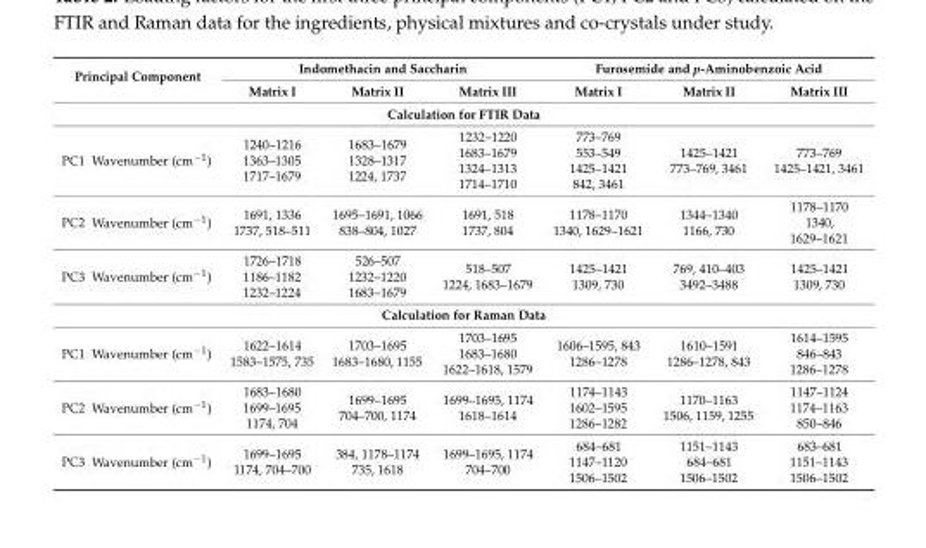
<table><thead><tr><td rowspan="2" colspan="2">Principal Component</td><td colspan="3">Indomethacin and Saccharin</td><td colspan="3">Furosemide and p-Aminobenzoic Acid</td></tr><tr><td>Matrix I</td><td>Matrix II</td><td>Matrix III</td><td>Matrix I</td><td>Matrix II</td><td>Matrix III</td></tr><tr><td colspan="8">Calculation for FTIR Data</td></tr><tr><td>PC1</td><td>Wavenumber (cm<sup>−1</sup>)</td><td>1240–1216 1363–1305 1717–1679</td><td>1683–1679 1328–1317 1224, 1737</td><td>1232–1220 1683–1679 1324–1313 1714–1710</td><td>773–769 553–549 1425–1421 842, 3461</td><td>1425–1421 773–769, 3461</td><td>773–769 1425–1421, 3461</td></tr></thead><tbody><tr><td>PC2</td><td>Wavenumber (cm<sup>−1</sup>)</td><td>1691, 1336 1737, 518–511</td><td>1695–1691, 1066 838–804, 1027</td><td>1691, 518 1737, 804</td><td>1178–1170 1340, 1629–1621</td><td>1344–1340 1166, 730</td><td>1178–1170 1340, 1629–1621</td></tr><tr><td>PC3</td><td>Wavenumber (cm<sup>−1</sup>)</td><td>1726–1718 1186–1182 1232–1224</td><td>526–507 1232–1220 1683–1679</td><td>518–507 1224, 1683–1679</td><td>1425–1421 1309, 730</td><td>769, 410–403 3492–3488</td><td>1425–1421 1309, 730</td></tr><tr><td colspan="8">Calculation for Raman Data</td></tr><tr><td>PC1</td><td>Wavenumber (cm<sup>−1</sup>)</td><td>1622–1614 1583–1575, 735</td><td>1703–1695 1683–1680, 1155</td><td>1703–1695 1683–1680 1622–1618, 1579</td><td>1606–1595, 843 1286–1278</td><td>1610–1591 1286–1278, 843</td><td>1614–1595 846–843 1286–1278</td></tr><tr><td>PC2</td><td>Wavenumber (cm<sup>−1</sup>)</td><td>1683–1680 1699–1695 1174, 704</td><td>1699–1695 704–700, 1174</td><td>1699–1695, 1174 1618–1614</td><td>1174–1143 1602–1595 1286–1282</td><td>1170–1163 1506, 1159, 1255</td><td>1147–1124 1174–1163 850–846</td></tr><tr><td>PC3</td><td>Wavenumber (cm<sup>−1</sup>)</td><td>1699–1695 1174, 704–700</td><td>384, 1178–1174 735, 1618</td><td>1699–1695, 1174 704–700</td><td>684–681 1147–1120 1506–1502</td><td>1151–1143 684–681 1506–1502</td><td>683–681 1151–1143 1506–1502</td></tr></tbody></table>